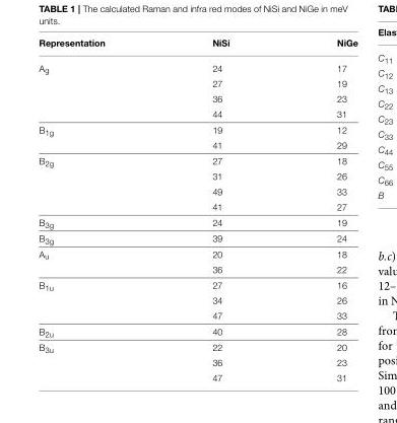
<table><thead><tr><td>Representation</td><td>NiSi</td><td>NiGe</td></tr></thead><tbody><tr><td rowspan="4">A<sub>g</sub></td><td>24</td><td>17</td></tr><tr><td>27</td><td>19</td></tr><tr><td>36</td><td>23</td></tr><tr><td>44</td><td>31</td></tr><tr><td rowspan="2">B<sub>1g</sub></td><td>19</td><td>12</td></tr><tr><td>41</td><td>29</td></tr><tr><td rowspan="4">B<sub>2g</sub></td><td>27</td><td>18</td></tr><tr><td>31</td><td>26</td></tr><tr><td>49</td><td>33</td></tr><tr><td>41</td><td>27</td></tr><tr><td>B<sub>3g</sub></td><td>24</td><td>19</td></tr><tr><td>B<sub>3g</sub></td><td>39</td><td>24</td></tr><tr><td rowspan="2">A<sub>u</sub></td><td>20</td><td>18</td></tr><tr><td>36</td><td>22</td></tr><tr><td rowspan="3">B<sub>1u</sub></td><td>27</td><td>16</td></tr><tr><td>34</td><td>26</td></tr><tr><td>47</td><td>33</td></tr><tr><td>B<sub>2u</sub></td><td>40</td><td>28</td></tr><tr><td rowspan="3">B<sub>3u</sub></td><td>22</td><td>20</td></tr><tr><td>36</td><td>23</td></tr><tr><td>47</td><td>31</td></tr></tbody></table>